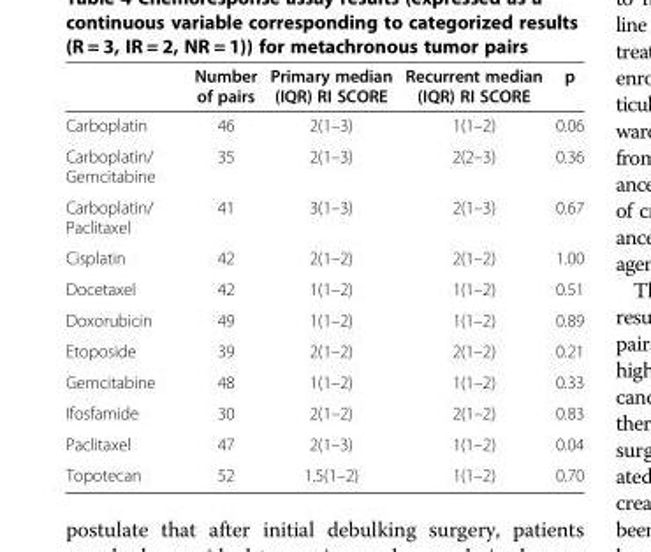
<table><thead><tr><td></td><td>Number of pairs</td><td>Primary median (IQR) RI SCORE</td><td>Recurrent median (IQR) RI SCORE</td><td>p</td></tr></thead><tbody><tr><td>Carboplatin</td><td>46</td><td>2(1–3)</td><td>1(1–2)</td><td>0.06</td></tr><tr><td>Carboplatin/ Gemcitabine</td><td>35</td><td>2(1–3)</td><td>2(2–3)</td><td>0.36</td></tr><tr><td>Carboplatin/ Paclitaxel</td><td>41</td><td>3(1–3)</td><td>2(1–3)</td><td>0.67</td></tr><tr><td>Cisplatin</td><td>42</td><td>2(1–2)</td><td>2(1–2)</td><td>1.00</td></tr><tr><td>Docetaxel</td><td>42</td><td>1(1–2)</td><td>1(1–2)</td><td>0.51</td></tr><tr><td>Doxorubicin</td><td>49</td><td>1(1–2)</td><td>1(1–2)</td><td>0.89</td></tr><tr><td>Etoposide</td><td>39</td><td>2(1–2)</td><td>2(1–2)</td><td>0.21</td></tr><tr><td>Gemcitabine</td><td>48</td><td>1(1–2)</td><td>1(1–2)</td><td>0.33</td></tr><tr><td>Ifosfamide</td><td>30</td><td>2(1–2)</td><td>2(1–2)</td><td>0.83</td></tr><tr><td>Paclitaxel</td><td>47</td><td>2(1–3)</td><td>1(1–2)</td><td>0.04</td></tr><tr><td>Topotecan</td><td>52</td><td>1.5(1–2)</td><td>1(1–2)</td><td>0.70</td></tr></tbody></table>